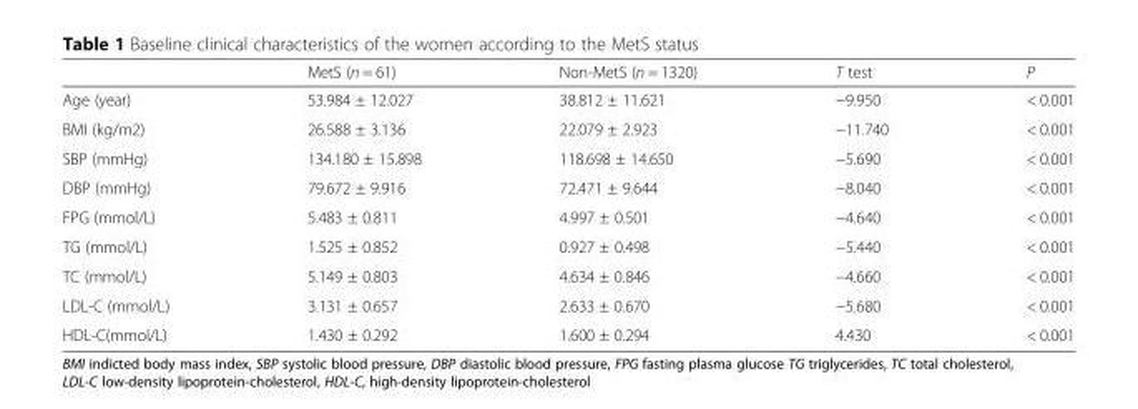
<table><thead><tr><td></td><td>MetS (n = 61)</td><td>Non-MetS (n = 1320)</td><td>T test</td><td>P</td></tr></thead><tbody><tr><td>Age (year)</td><td>53.984 ± 12.027</td><td>38.812 ± 11.621</td><td>−9.950</td><td>&lt; 0.001</td></tr><tr><td>BMI (kg/m2)</td><td>26.588 ± 3.136</td><td>22.079 ± 2.923</td><td>−11.740</td><td>&lt; 0.001</td></tr><tr><td>SBP (mmHg)</td><td>134.180 ± 15.898</td><td>118.698 ± 14.650</td><td>−5.690</td><td>&lt; 0.001</td></tr><tr><td>DBP (mmHg)</td><td>79.672 ± 9.916</td><td>72.471 ± 9.644</td><td>−8.040</td><td>&lt; 0.001</td></tr><tr><td>FPG (mmol/L)</td><td>5.483 ± 0.811</td><td>4.997 ± 0.501</td><td>−4.640</td><td>&lt; 0.001</td></tr><tr><td>TG (mmol/L)</td><td>1.525 ± 0.852</td><td>0.927 ± 0.498</td><td>−5.440</td><td>&lt; 0.001</td></tr><tr><td>TC (mmol/L)</td><td>5.149 ± 0.803</td><td>4.634 ± 0.846</td><td>−4.660</td><td>&lt; 0.001</td></tr><tr><td>LDL-C (mmol/L)</td><td>3.131 ± 0.657</td><td>2.633 ± 0.670</td><td>−5.680</td><td>&lt; 0.001</td></tr><tr><td>HDL-C(mmol/L)</td><td>1.430 ± 0.292</td><td>1.600 ± 0.294</td><td>4.430</td><td>&lt; 0.001</td></tr></tbody></table>